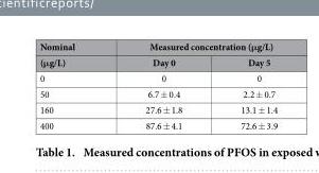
<table><thead><tr><td rowspan="2">Nominal (μg/L)</td><td colspan="2">Measured concentration (μg/L)</td></tr><tr><td>Day 0</td><td>Day 5</td></tr></thead><tbody><tr><td>0</td><td>0</td><td>0</td></tr><tr><td>50</td><td>6.7 ± 0.4</td><td>2.2 ± 0.7</td></tr><tr><td>160</td><td>27.6 ± 1.8</td><td>13.1 ± 1.4</td></tr><tr><td>400</td><td>87.6 ± 4.1</td><td>72.6 ± 3.9</td></tr></tbody></table>